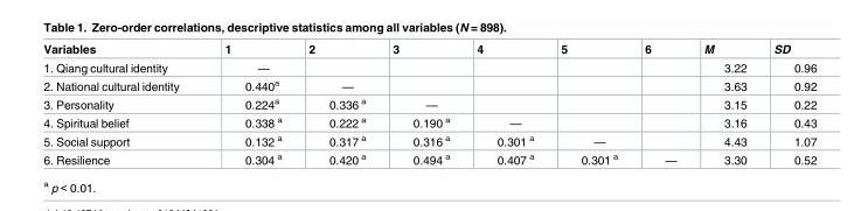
<table><thead><tr><td>Variables</td><td>1</td><td>2</td><td>3</td><td>4</td><td>5</td><td>6</td><td>M</td><td>SD</td></tr></thead><tbody><tr><td>1. Qiang cultural identity</td><td>—</td><td></td><td></td><td></td><td></td><td></td><td>3.22</td><td>0.96</td></tr><tr><td>2. National cultural identity</td><td>0.440<sup>a</sup></td><td>—</td><td></td><td></td><td></td><td></td><td>3.63</td><td>0.92</td></tr><tr><td>3. Personality</td><td>0.224<sup>a</sup></td><td>0.336 <sup>a</sup></td><td>—</td><td></td><td></td><td></td><td>3.15</td><td>0.22</td></tr><tr><td>4. Spiritual belief</td><td>0.338 <sup>a</sup></td><td>0.222 <sup>a</sup></td><td>0.190 <sup>a</sup></td><td>—</td><td></td><td></td><td>3.16</td><td>0.43</td></tr><tr><td>5. Social support</td><td>0.132 <sup>a</sup></td><td>0.317 <sup>a</sup></td><td>0.316 <sup>a</sup></td><td>0.301 <sup>a</sup></td><td>—</td><td></td><td>4.43</td><td>1.07</td></tr><tr><td>6. Resilience</td><td>0.304 <sup>a</sup></td><td>0.420 <sup>a</sup></td><td>0.494 <sup>a</sup></td><td>0.407 <sup>a</sup></td><td>0.301 <sup>a</sup></td><td>—</td><td>3.30</td><td>0.52</td></tr></tbody></table>